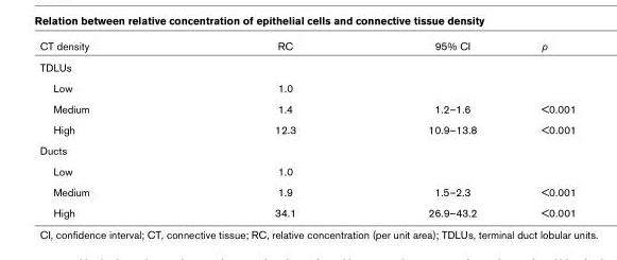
<table><thead><tr><td>CT density</td><td>RC</td><td>95% CI</td><td>p</td></tr></thead><tbody><tr><td colspan="4">TDLUs</td></tr><tr><td>Low</td><td>1.0</td><td></td><td></td></tr><tr><td>Medium</td><td>1.4</td><td>1.2–1.6</td><td>&lt;0.001</td></tr><tr><td>High</td><td>12.3</td><td>10.9–13.8</td><td>&lt;0.001</td></tr><tr><td colspan="4">Ducts</td></tr><tr><td>Low</td><td>1.0</td><td></td><td></td></tr><tr><td>Medium</td><td>1.9</td><td>1.5–2.3</td><td>&lt;0.001</td></tr><tr><td>High</td><td>34.1</td><td>26.9–43.2</td><td>&lt;0.001</td></tr></tbody></table>